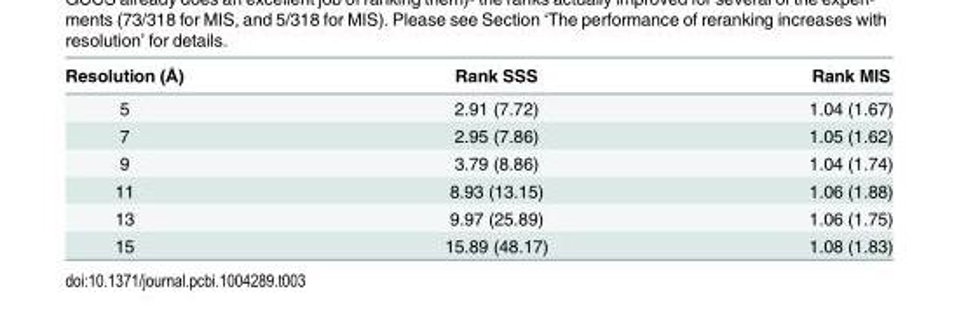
<table><thead><tr><td>Resolution (Å)</td><td>Rank SSS</td><td>Rank MIS</td></tr></thead><tbody><tr><td>5</td><td>2.91 (7.72)</td><td>1.04 (1.67)</td></tr><tr><td>7</td><td>2.95 (7.86)</td><td>1.05 (1.62)</td></tr><tr><td>9</td><td>3.79 (8.86)</td><td>1.04 (1.74)</td></tr><tr><td>11</td><td>8.93 (13.15)</td><td>1.06 (1.88)</td></tr><tr><td>13</td><td>9.97 (25.89)</td><td>1.06 (1.75)</td></tr><tr><td>15</td><td>15.89 (48.17)</td><td>1.08 (1.83)</td></tr></tbody></table>